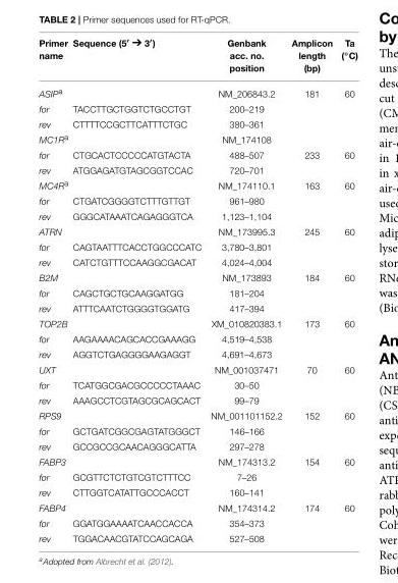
<table><thead><tr><td>Primer name</td><td>Sequence (5′ � 3′)</td><td>Genbank acc. no. position</td><td>Amplicon length (bp)</td><td>Ta (◦C)</td></tr></thead><tbody><tr><td>ASIP<sup>a</sup></td><td></td><td>NM_206843.2</td><td>181</td><td>60</td></tr><tr><td>for</td><td>TACCTTGCTGGTCTGCCTGT</td><td>200–219</td><td></td><td></td></tr><tr><td>rev</td><td>CTTTTCCGCTTCATTTCTGC</td><td>380–361</td><td></td><td></td></tr><tr><td>MC1R<sup>a</sup></td><td></td><td>NM_174108</td><td></td><td></td></tr><tr><td>for</td><td>CTGCACTCCCCCATGTACTA</td><td>488–507</td><td>233</td><td>60</td></tr><tr><td>rev</td><td>ATGGAGATGTAGCGGTCCAC</td><td>720–701</td><td></td><td></td></tr><tr><td>MC4R<sup>a</sup></td><td></td><td>NM_174110.1</td><td>163</td><td>60</td></tr><tr><td>for</td><td>CTGATCGGGGTCTTTGTTGT</td><td>961–980</td><td></td><td></td></tr><tr><td>rev</td><td>GGGCATAAATCAGAGGGTCA</td><td>1,123–1,104</td><td></td><td></td></tr><tr><td>ATRN</td><td></td><td>NM_173995.3</td><td>245</td><td>60</td></tr><tr><td>for</td><td>CAGTAATTTCACCTGGCCCATC</td><td>3,780–3,801</td><td></td><td></td></tr><tr><td>rev</td><td>CATCTGTTTCCAAGGCGACAT</td><td>4,024–4,004</td><td></td><td></td></tr><tr><td>B2M</td><td></td><td>NM_173893</td><td>184</td><td>60</td></tr><tr><td>for</td><td>CAGCTGCTGCAAGGATGG</td><td>181–204</td><td></td><td></td></tr><tr><td>rev</td><td>ATTTCAATCTGGGGTGGATG</td><td>417–394</td><td></td><td></td></tr><tr><td>TOP2B</td><td></td><td>XM_010820383.1</td><td>173</td><td>60</td></tr><tr><td>for</td><td>AAGAAAACAGCACCGAAAGG</td><td>4,519–4,538</td><td></td><td></td></tr><tr><td>rev</td><td>AGGTCTGAGGGGAAGAGGT</td><td>4,691–4,673</td><td></td><td></td></tr><tr><td>UXT</td><td></td><td>NM_001037471</td><td>70</td><td>60</td></tr><tr><td>for</td><td>TCATGGCGACGCCCCCTAAAC</td><td>30–50</td><td></td><td></td></tr><tr><td>rev</td><td>AAAGCCTCGTAGCGCAGCACT</td><td>99–79</td><td></td><td></td></tr><tr><td>RPS9</td><td></td><td>NM_001101152.2</td><td>152</td><td>60</td></tr><tr><td>for</td><td>GCTGATCGGCGAGTATGGGCT</td><td>146–166</td><td></td><td></td></tr><tr><td>rev</td><td>GCCGCCGCAACAGGGCATTA</td><td>297–278</td><td></td><td></td></tr><tr><td>FABP3</td><td></td><td>NM_174313.2</td><td>154</td><td>60</td></tr><tr><td>for</td><td>GCGTTCTCTGTCGTCTTTCC</td><td>7–26</td><td></td><td></td></tr><tr><td>rev</td><td>CTTGGTCATATTGCCCACCT</td><td>160–141</td><td></td><td></td></tr><tr><td>FABP4</td><td></td><td>NM_174314.2</td><td>174</td><td>60</td></tr><tr><td>for</td><td>GGATGGAAAATCAACCACCA</td><td>354–373</td><td></td><td></td></tr><tr><td>rev</td><td>TGGACAACGTATCCAGCAGA</td><td>527–508</td><td></td><td></td></tr></tbody></table>